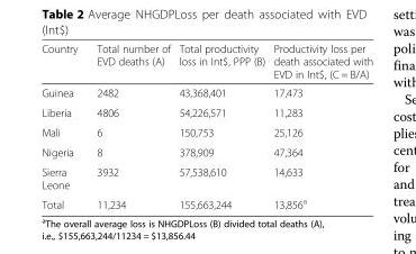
<table><thead><tr><td>Country</td><td>Total number of EVD deaths (A)</td><td>Total productivity loss in Int$, PPP (B)</td><td>Productivity loss per death associated with EVD in Int$, (C = B/A)</td></tr></thead><tbody><tr><td>Guinea</td><td>2482</td><td>43,368,401</td><td>17,473</td></tr><tr><td>Liberia</td><td>4806</td><td>54,226,571</td><td>11,283</td></tr><tr><td>Mali</td><td>6</td><td>150,753</td><td>25,126</td></tr><tr><td>Nigeria</td><td>8</td><td>378,909</td><td>47,364</td></tr><tr><td>Sierra Leone</td><td>3932</td><td>57,538,610</td><td>14,633</td></tr><tr><td>Total</td><td>11,234</td><td>155,663,244</td><td>13,856<sup>a</sup></td></tr></tbody></table>